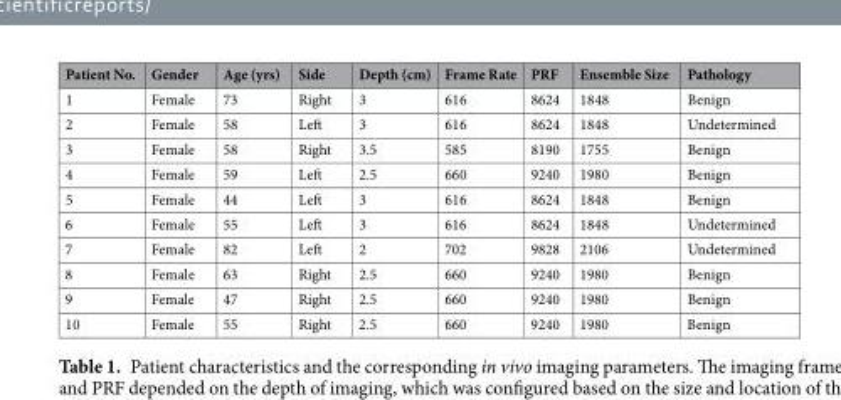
<table><thead><tr><td>Patient No.</td><td>Gender</td><td>Age (yrs)</td><td>Side</td><td>Depth (cm)</td><td>Frame Rate</td><td>PRF</td><td>Ensemble Size</td><td>Pathology</td></tr></thead><tbody><tr><td>1</td><td>Female</td><td>73</td><td>Right</td><td>3</td><td>616</td><td>8624</td><td>1848</td><td>Benign</td></tr><tr><td>2</td><td>Female</td><td>58</td><td>Left</td><td>3</td><td>616</td><td>8624</td><td>1848</td><td>Undetermined</td></tr><tr><td>3</td><td>Female</td><td>58</td><td>Right</td><td>3.5</td><td>585</td><td>8190</td><td>1755</td><td>Benign</td></tr><tr><td>4</td><td>Female</td><td>59</td><td>Left</td><td>2.5</td><td>660</td><td>9240</td><td>1980</td><td>Benign</td></tr><tr><td>5</td><td>Female</td><td>44</td><td>Left</td><td>3</td><td>616</td><td>8624</td><td>1848</td><td>Benign</td></tr><tr><td>6</td><td>Female</td><td>55</td><td>Left</td><td>3</td><td>616</td><td>8624</td><td>1848</td><td>Undetermined</td></tr><tr><td>7</td><td>Female</td><td>82</td><td>Left</td><td>2</td><td>702</td><td>9828</td><td>2106</td><td>Undetermined</td></tr><tr><td>8</td><td>Female</td><td>63</td><td>Right</td><td>2.5</td><td>660</td><td>9240</td><td>1980</td><td>Benign</td></tr><tr><td>9</td><td>Female</td><td>47</td><td>Right</td><td>2.5</td><td>660</td><td>9240</td><td>1980</td><td>Benign</td></tr><tr><td>10</td><td>Female</td><td>55</td><td>Right</td><td>2.5</td><td>660</td><td>9240</td><td>1980</td><td>Benign</td></tr></tbody></table>